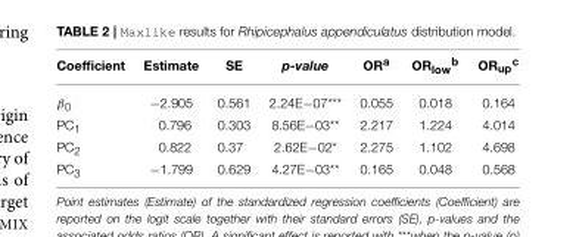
<table><thead><tr><td>Coefficient</td><td>Estimate</td><td>SE</td><td>p-value</td><td>OR<sup>a</sup></td><td>OR<sub>low</sub><sup>b</sup></td><td>OR<sub>up</sub><sup>c</sup></td></tr></thead><tbody><tr><td>β<sub>0</sub></td><td>−2.905</td><td>0.561</td><td>2.24E−07***</td><td>0.055</td><td>0.018</td><td>0.164</td></tr><tr><td>PC<sub>1</sub></td><td>0.796</td><td>0.303</td><td>8.56E−03**</td><td>2.217</td><td>1.224</td><td>4.014</td></tr><tr><td>PC<sub>2</sub></td><td>0.822</td><td>0.37</td><td>2.62E−02*</td><td>2.275</td><td>1.102</td><td>4.698</td></tr><tr><td>PC<sub>3</sub></td><td>−1.799</td><td>0.629</td><td>4.27E−03**</td><td>0.165</td><td>0.048</td><td>0.568</td></tr></tbody></table>